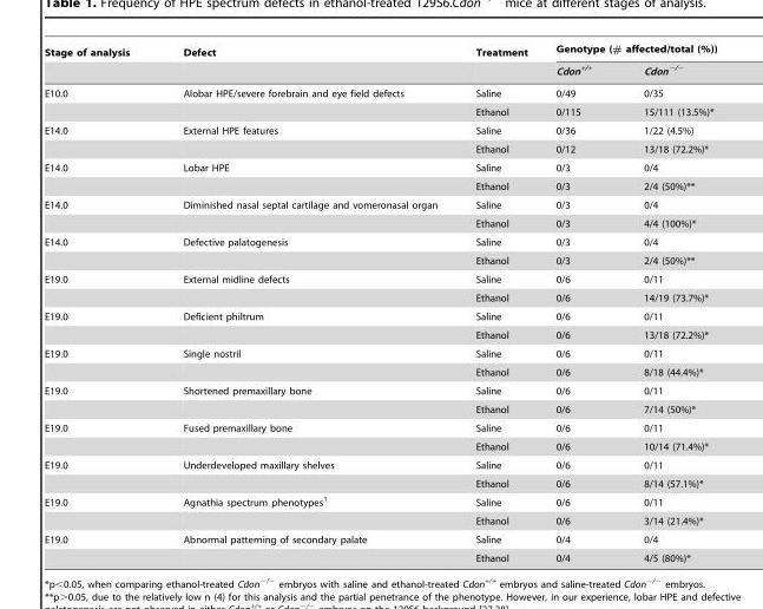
<table><thead><tr><td rowspan="2">Stage of analysis</td><td rowspan="2">Defect</td><td rowspan="2">Treatment</td><td colspan="2">Genotype (# affected/total (%))</td></tr><tr><td>Cdon<sup>+/+</sup></td><td>Cdon<sup>−/−</sup></td></tr></thead><tbody><tr><td rowspan="2">E10.0</td><td>Alobar HPE/severe forebrain and eye field defects</td><td>Saline</td><td>0/49</td><td>0/35</td></tr><tr><td></td><td>Ethanol</td><td>0/115</td><td>15/111 (13.5%)*</td></tr><tr><td rowspan="2">E14.0</td><td>External HPE features</td><td>Saline</td><td>0/36</td><td>1/22 (4.5%)</td></tr><tr><td></td><td>Ethanol</td><td>0/12</td><td>13/18 (72.2%)*</td></tr><tr><td rowspan="2">E14.0</td><td>Lobar HPE</td><td>Saline</td><td>0/3</td><td>0/4</td></tr><tr><td></td><td>Ethanol</td><td>0/3</td><td>2/4 (50%)**</td></tr><tr><td rowspan="2">E14.0</td><td>Diminished nasal septal cartilage and vomeronasal organ</td><td>Saline</td><td>0/3</td><td>0/4</td></tr><tr><td></td><td>Ethanol</td><td>0/3</td><td>4/4 (100%)*</td></tr><tr><td rowspan="2">E14.0</td><td>Defective palatogenesis</td><td>Saline</td><td>0/3</td><td>0/4</td></tr><tr><td></td><td>Ethanol</td><td>0/3</td><td>2/4 (50%)**</td></tr><tr><td rowspan="2">E19.0</td><td>External midline defects</td><td>Saline</td><td>0/6</td><td>0/11</td></tr><tr><td></td><td>Ethanol</td><td>0/6</td><td>14/19 (73.7%)*</td></tr><tr><td rowspan="2">E19.0</td><td>Deficient philtrum</td><td>Saline</td><td>0/6</td><td>0/11</td></tr><tr><td></td><td>Ethanol</td><td>0/6</td><td>13/18 (72.2%)*</td></tr><tr><td rowspan="2">E19.0</td><td>Single nostril</td><td>Saline</td><td>0/6</td><td>0/11</td></tr><tr><td></td><td>Ethanol</td><td>0/6</td><td>8/18 (44.4%)*</td></tr><tr><td rowspan="2">E19.0</td><td>Shortened premaxillary bone</td><td>Saline</td><td>0/6</td><td>0/11</td></tr><tr><td></td><td>Ethanol</td><td>0/6</td><td>7/14 (50%)*</td></tr><tr><td rowspan="2">E19.0</td><td>Fused premaxillary bone</td><td>Saline</td><td>0/6</td><td>0/11</td></tr><tr><td></td><td>Ethanol</td><td>0/6</td><td>10/14 (71.4%)*</td></tr><tr><td rowspan="2">E19.0</td><td>Underdeveloped maxillary shelves</td><td>Saline</td><td>0/6</td><td>0/11</td></tr><tr><td></td><td>Ethanol</td><td>0/6</td><td>8/14 (57.1%)*</td></tr><tr><td rowspan="2">E19.0</td><td>Agnathia spectrum phenotypes<sup>1</sup></td><td>Saline</td><td>0/6</td><td>0/11</td></tr><tr><td></td><td>Ethanol</td><td>0/6</td><td>3/14 (21.4%)*</td></tr><tr><td rowspan="2">E19.0</td><td>Abnormal patterning of secondary palate</td><td>Saline</td><td>0/4</td><td>0/4</td></tr><tr><td></td><td>Ethanol</td><td>0/4</td><td>4/5 (80%)*</td></tr></tbody></table>